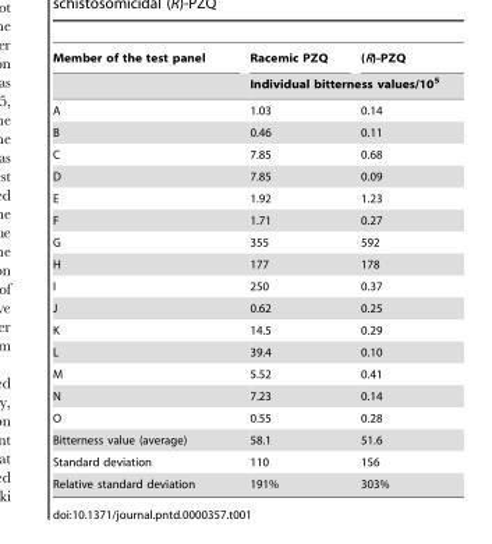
<table><thead><tr><td rowspan="2">Member of the test panel</td><td>Racemic PZQ</td><td>(R)-PZQ</td></tr><tr><td colspan="2">Individual bitterness values/10<sup>5</sup></td></tr></thead><tbody><tr><td>A</td><td>1.03</td><td>0.14</td></tr><tr><td>B</td><td>0.46</td><td>0.11</td></tr><tr><td>C</td><td>7.85</td><td>0.68</td></tr><tr><td>D</td><td>7.85</td><td>0.09</td></tr><tr><td>E</td><td>1.92</td><td>1.23</td></tr><tr><td>F</td><td>1.71</td><td>0.27</td></tr><tr><td>G</td><td>355</td><td>592</td></tr><tr><td>H</td><td>177</td><td>178</td></tr><tr><td>I</td><td>250</td><td>0.37</td></tr><tr><td>J</td><td>0.62</td><td>0.25</td></tr><tr><td>K</td><td>14.5</td><td>0.29</td></tr><tr><td>L</td><td>39.4</td><td>0.10</td></tr><tr><td>M</td><td>5.52</td><td>0.41</td></tr><tr><td>N</td><td>7.23</td><td>0.14</td></tr><tr><td>O</td><td>0.55</td><td>0.28</td></tr><tr><td>Bitterness value (average)</td><td>58.1</td><td>51.6</td></tr><tr><td>Standard deviation</td><td>110</td><td>156</td></tr><tr><td>Relative standard deviation</td><td>191%</td><td>303%</td></tr></tbody></table>